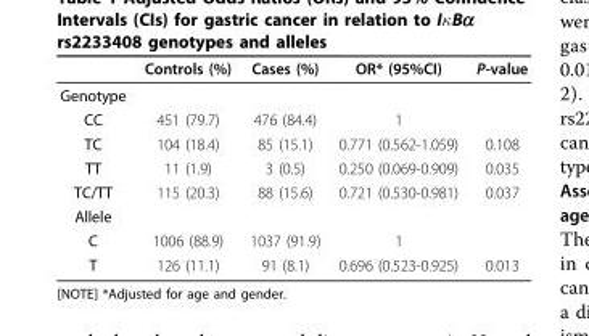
<table><thead><tr><td></td><td>Controls (%)</td><td>Cases (%)</td><td>OR* (95%CI)</td><td>P-value</td></tr></thead><tbody><tr><td colspan="5">Genotype</td></tr><tr><td>CC</td><td>451 (79.7)</td><td>476 (84.4)</td><td>1</td><td></td></tr><tr><td>TC</td><td>104 (18.4)</td><td>85 (15.1)</td><td>0.771 (0.562-1.059)</td><td>0.108</td></tr><tr><td>TT</td><td>11 (1.9)</td><td>3 (0.5)</td><td>0.250 (0.069-0.909)</td><td>0.035</td></tr><tr><td>TC/TT</td><td>115 (20.3)</td><td>88 (15.6)</td><td>0.721 (0.530-0.981)</td><td>0.037</td></tr><tr><td colspan="5">Allele</td></tr><tr><td>C</td><td>1006 (88.9)</td><td>1037 (91.9)</td><td>1</td><td></td></tr><tr><td>T</td><td>126 (11.1)</td><td>91 (8.1)</td><td>0.696 (0.523-0.925)</td><td>0.013</td></tr></tbody></table>